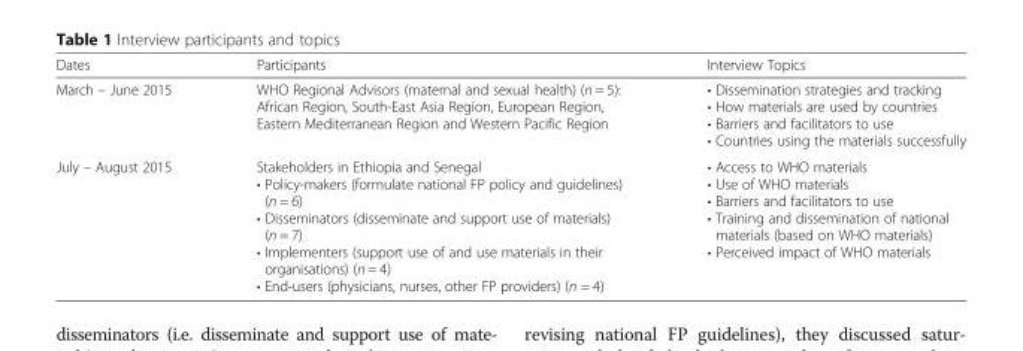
<table><thead><tr><td>Dates</td><td>Participants</td><td>Interview Topics</td></tr></thead><tbody><tr><td>March – June 2015</td><td>WHO Regional Advisors (maternal and sexual health) (n = 5): African Region, South-East Asia Region, European Region, Eastern Mediterranean Region and Western Pacific Region</td><td>• Dissemination strategies and tracking • How materials are used by countries • Barriers and facilitators to use • Countries using the materials successfully</td></tr><tr><td>July – August 2015</td><td>Stakeholders in Ethiopia and Senegal • Policy-makers (formulate national FP policy and guidelines) (n = 6) • Disseminators (disseminate and support use of materials) (n = 7) • Implementers (support use of and use materials in their organisations) (n = 4) • End-users (physicians, nurses, other FP providers) (n = 4)</td><td>• Access to WHO materials • Use of WHO materials • Barriers and facilitators to use • Training and dissemination of national materials (based on WHO materials) • Perceived impact of WHO materials</td></tr></tbody></table>